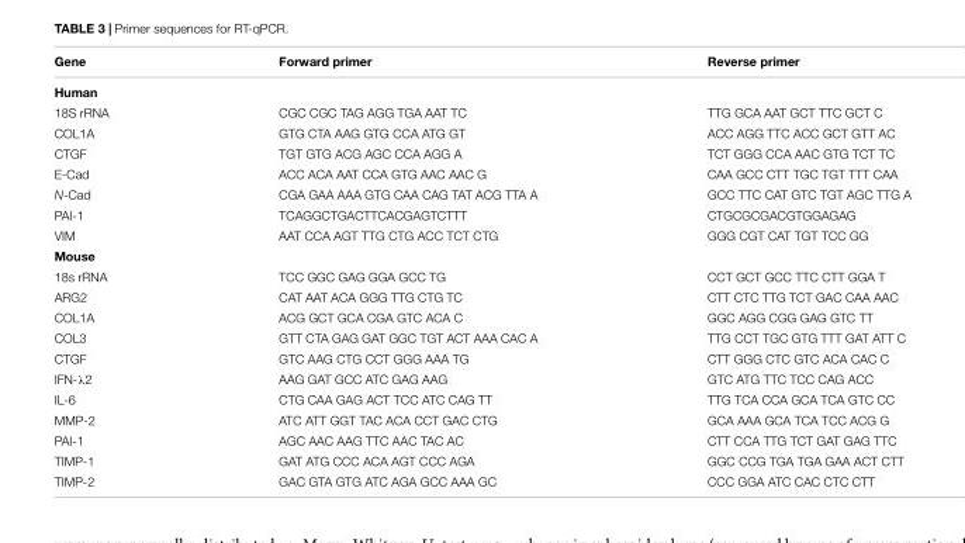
<table><thead><tr><td>Gene</td><td>Forward primer</td><td>Reverse primer</td></tr></thead><tbody><tr><td colspan="3">Human</td></tr><tr><td>18S rRNA</td><td>CGC CGC TAG AGG TGA AAT TC</td><td>TTG GCA AAT GCT TTC GCT C</td></tr><tr><td>COL1A</td><td>GTG CTA AAG GTG CCA ATG GT</td><td>ACC AGG TTC ACC GCT GTT AC</td></tr><tr><td>CTGF</td><td>TGT GTG ACG AGC CCA AGG A</td><td>TCT GGG CCA AAC GTG TCT TC</td></tr><tr><td>E-Cad</td><td>ACC ACA AAT CCA GTG AAC AAC G</td><td>CAA GCC CTT TGC TGT TTT CAA</td></tr><tr><td>N-Cad</td><td>CGA GAA AAA GTG CAA CAG TAT ACG TTA A</td><td>GCC TTC CAT GTC TGT AGC TTG A</td></tr><tr><td>PAI-1</td><td>TCAGGCTGACTTCACGAGTCTTT</td><td>CTGCGCGACGTGGAGAG</td></tr><tr><td>VIM</td><td>AAT CCA AGT TTG CTG ACC TCT CTG</td><td>GGG CGT CAT TGT TCC GG</td></tr><tr><td colspan="3">Mouse</td></tr><tr><td>18s rRNA</td><td>TCC GGC GAG GGA GCC TG</td><td>CCT GCT GCC TTC CTT GGA T</td></tr><tr><td>ARG2</td><td>CAT AAT ACA GGG TTG CTG TC</td><td>CTT CTC TTG TCT GAC CAA AAC</td></tr><tr><td>COL1A</td><td>ACG GCT GCA CGA GTC ACA C</td><td>GGC AGG CGG GAG GTC TT</td></tr><tr><td>COL3</td><td>GTT CTA GAG GAT GGC TGT ACT AAA CAC A</td><td>TTG CCT TGC GTG TTT GAT ATT C</td></tr><tr><td>CTGF</td><td>GTC AAG CTG CCT GGG AAA TG</td><td>CTT GGG CTC GTC ACA CAC C</td></tr><tr><td>IFN-λ2</td><td>AAG GAT GCC ATC GAG AAG</td><td>GTC ATG TTC TCC CAG ACC</td></tr><tr><td>IL-6</td><td>CTG CAA GAG ACT TCC ATC CAG TT</td><td>TTG TCA CCA GCA TCA GTC CC</td></tr><tr><td>MMP-2</td><td>ATC ATT GGT TAC ACA CCT GAC CTG</td><td>GCA AAA GCA TCA TCC ACG G</td></tr><tr><td>PAI-1</td><td>AGC AAC AAG TTC AAC TAC AC</td><td>CTT CCA TTG TCT GAT GAG TTC</td></tr><tr><td>TIMP-1</td><td>GAT ATG CCC ACA AGT CCC AGA</td><td>GGC CCG TGA TGA GAA ACT CTT</td></tr><tr><td>TIMP-2</td><td>GAC GTA GTG ATC AGA GCC AAA GC</td><td>CCC GGA ATC CAC CTC CTT</td></tr></tbody></table>